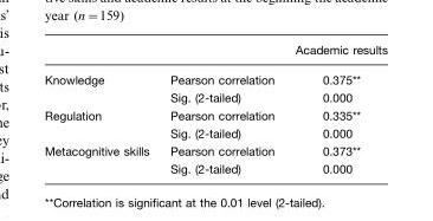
<table><thead><tr><td></td><td></td><td>Academic results</td></tr></thead><tbody><tr><td rowspan="2">Knowledge</td><td>Pearson correlation</td><td>0.375**</td></tr><tr><td>Sig. (2-tailed)</td><td>0.000</td></tr><tr><td rowspan="2">Regulation</td><td>Pearson correlation</td><td>0.335**</td></tr><tr><td>Sig. (2-tailed)</td><td>0.000</td></tr><tr><td rowspan="2">Metacognitive skills</td><td>Pearson correlation</td><td>0.373**</td></tr><tr><td>Sig. (2-tailed)</td><td>0.000</td></tr></tbody></table>